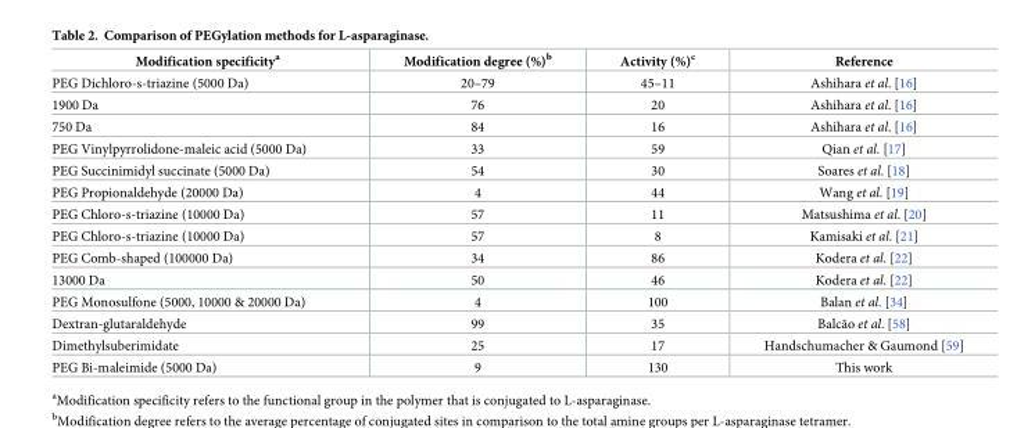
<table><thead><tr><td>Modification specificity<sup>a</sup></td><td>Modification degree (%)<sup>b</sup></td><td>Activity (%)<sup>c</sup></td><td>Reference</td></tr></thead><tbody><tr><td>PEG Dichloro-s-triazine (5000 Da)</td><td>20–79</td><td>45–11</td><td>Ashihara et al. [16]</td></tr><tr><td>1900 Da</td><td>76</td><td>20</td><td>Ashihara et al. [16]</td></tr><tr><td>750 Da</td><td>84</td><td>16</td><td>Ashihara et al. [16]</td></tr><tr><td>PEG Vinylpyrrolidone-maleic acid (5000 Da)</td><td>33</td><td>59</td><td>Qian et al. [17]</td></tr><tr><td>PEG Succinimidyl succinate (5000 Da)</td><td>54</td><td>30</td><td>Soares et al. [18]</td></tr><tr><td>PEG Propionaldehyde (20000 Da)</td><td>4</td><td>44</td><td>Wang et al. [19]</td></tr><tr><td>PEG Chloro-s-triazine (10000 Da)</td><td>57</td><td>11</td><td>Matsushima et al. [20]</td></tr><tr><td>PEG Chloro-s-triazine (10000 Da)</td><td>57</td><td>8</td><td>Kamisaki et al. [21]</td></tr><tr><td>PEG Comb-shaped (100000 Da)</td><td>34</td><td>86</td><td>Kodera et al. [22]</td></tr><tr><td>13000 Da</td><td>50</td><td>46</td><td>Kodera et al. [22]</td></tr><tr><td>PEG Monosulfone (5000, 10000 &amp; 20000 Da)</td><td>4</td><td>100</td><td>Balan et al. [34]</td></tr><tr><td>Dextran-glutaraldehyde</td><td>99</td><td>35</td><td>Balcão et al. [58]</td></tr><tr><td>Dimethylsuberimidate</td><td>25</td><td>17</td><td>Handschumacher &amp; Gaumond [59]</td></tr><tr><td>PEG Bi-maleimide (5000 Da)</td><td>9</td><td>130</td><td>This work</td></tr></tbody></table>